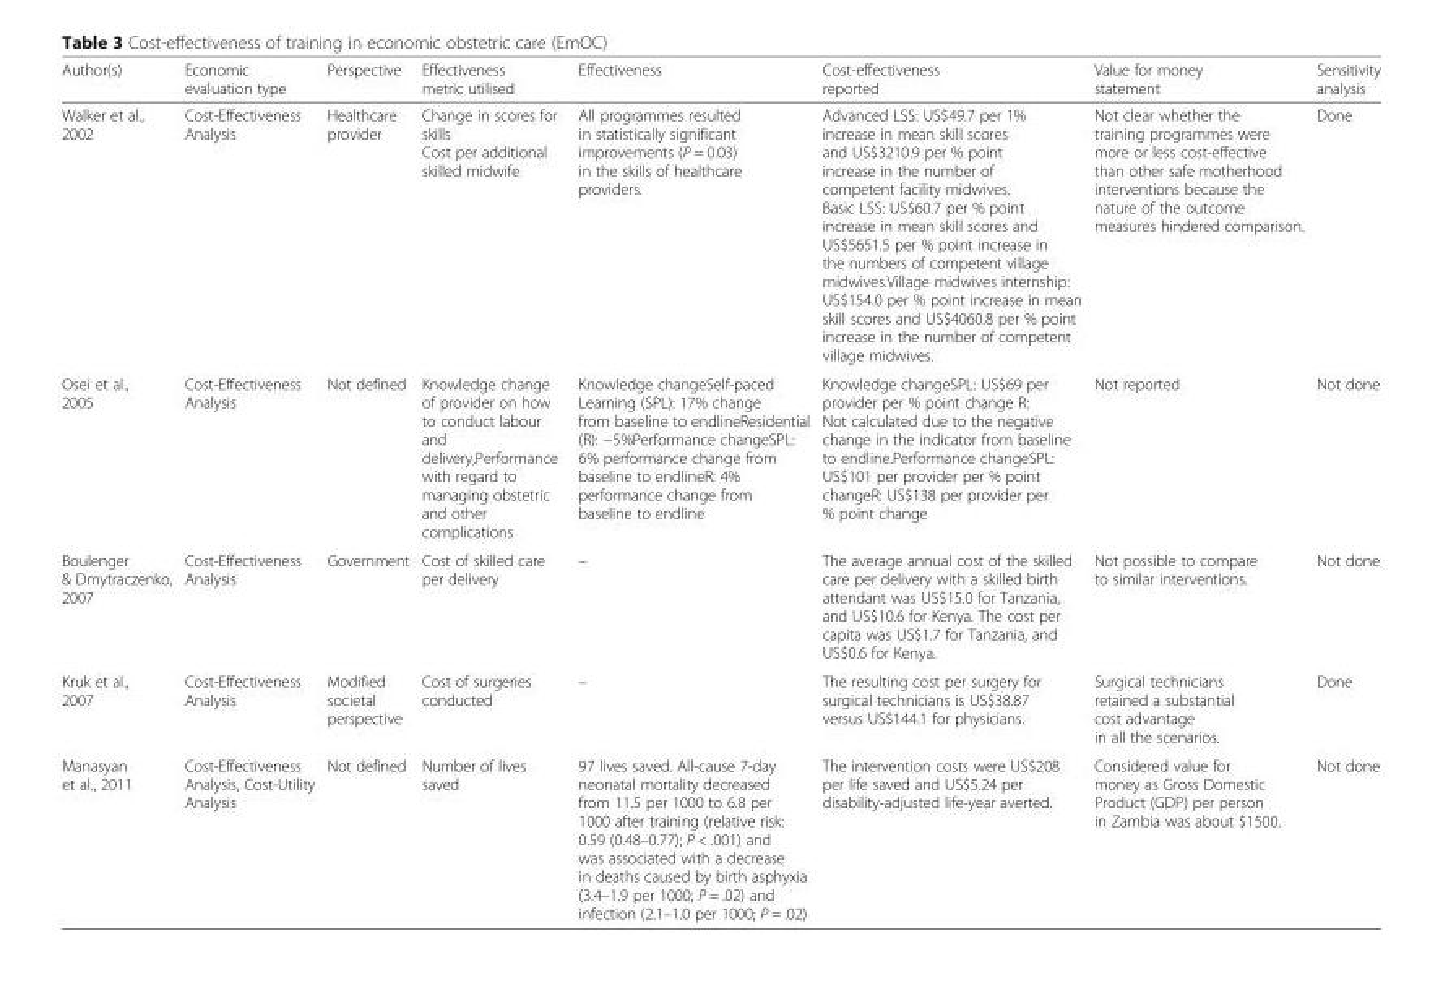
<table><thead><tr><td>Author(s)</td><td>Economic evaluation type</td><td>Perspective</td><td>Effectiveness metric utilised</td><td>Effectiveness</td><td>Cost-effectiveness reported</td><td>Value for money statement</td><td>Sensitivity analysis</td></tr></thead><tbody><tr><td>Walker et al., 2002</td><td>Cost-Effectiveness Analysis</td><td>Healthcare provider</td><td>Change in scores for skills Cost per additional skilled midwife</td><td>All programmes resulted in statistically significant improvements (P = 0.03) in the skills of healthcare providers.</td><td>Advanced LSS: US$49.7 per 1% increase in mean skill scores and US$3210.9 per % point increase in the number of competent facility midwives. Basic LSS: US$60.7 per % point increase in mean skill scores and US$5651.5 per % point increase in the numbers of competent village midwives.Village midwives internship: US$154.0 per % point increase in mean skill scores and US$4060.8 per % point increase in the number of competent village midwives.</td><td>Not clear whether the training programmes were more or less cost-effective than other safe motherhood interventions because the nature of the outcome measures hindered comparison.</td><td>Done</td></tr><tr><td>Osei et al., 2005</td><td>Cost-Effectiveness Analysis</td><td>Not defined</td><td>Knowledge change of provider on how to conduct labour and delivery,Performance with regard to managing obstetric and other complications</td><td>Knowledge changeSelf-paced Learning (SPL): 17% change from baseline to endlineResidential (R): −5%Performance changeSPL: 6% performance change from baseline to endlineR: 4% performance change from baseline to endline</td><td>Knowledge changeSPL: US$69 per provider per % point change R: Not calculated due to the negative change in the indicator from baseline to endline.Performance changeSPL: US$101 per provider per % point changeR: US$138 per provider per % point change</td><td>Not reported</td><td>Not done</td></tr><tr><td>Boulenger &amp; Dmytraczenko, 2007</td><td>Cost-Effectiveness Analysis</td><td>Government</td><td>Cost of skilled care per delivery</td><td>–</td><td>The average annual cost of the skilled care per delivery with a skilled birth attendant was US$15.0 for Tanzania, and US$10.6 for Kenya. The cost per capita was US$1.7 for Tanzania, and US$0.6 for Kenya.</td><td>Not possible to compare to similar interventions.</td><td>Not done</td></tr><tr><td>Kruk et al., 2007</td><td>Cost-Effectiveness Analysis</td><td>Modified societal perspective</td><td>Cost of surgeries conducted</td><td>–</td><td>The resulting cost per surgery for surgical technicians is US$38.87 versus US$144.1 for physicians.</td><td>Surgical technicians retained a substantial cost advantage in all the scenarios.</td><td>Done</td></tr><tr><td>Manasyan et al., 2011</td><td>Cost-Effectiveness Analysis, Cost-Utility Analysis</td><td>Not defined</td><td>Number of lives saved</td><td>97 lives saved. All-cause 7-day neonatal mortality decreased from 11.5 per 1000 to 6.8 per 1000 after training (relative risk: 0.59 (0.48–0.77); P &lt; .001) and was associated with a decrease in deaths caused by birth asphyxia (3.4–1.9 per 1000; P = .02) and infection (2.1–1.0 per 1000; P = .02)</td><td>The intervention costs were US$208 per life saved and US$5.24 per disability-adjusted life-year averted.</td><td>Considered value for money as Gross Domestic Product (GDP) per person in Zambia was about $1500.</td><td>Not done</td></tr></tbody></table>